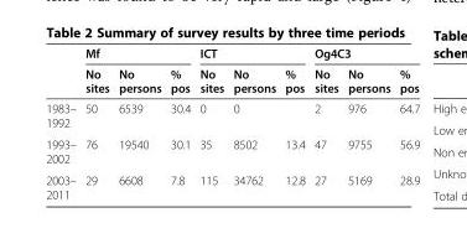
<table><thead><tr><td rowspan="2"></td><td colspan="3">Mf</td><td colspan="3">ICT</td><td colspan="3">Og4C3</td></tr><tr><td>No sites</td><td>No persons</td><td>% pos</td><td>No sites</td><td>No persons</td><td>% pos</td><td>No sites</td><td>No persons</td><td>% pos</td></tr></thead><tbody><tr><td>1983– 1992</td><td>50</td><td>6539</td><td>30.4</td><td>0</td><td>0</td><td></td><td>2</td><td>976</td><td>64.7</td></tr><tr><td>1993– 2002</td><td>76</td><td>19540</td><td>30.1</td><td>35</td><td>8502</td><td>13.4</td><td>47</td><td>9755</td><td>56.9</td></tr><tr><td>2003– 2011</td><td>29</td><td>6608</td><td>7.8</td><td>115</td><td>34762</td><td>12.8</td><td>27</td><td>5169</td><td>28.9</td></tr></tbody></table>